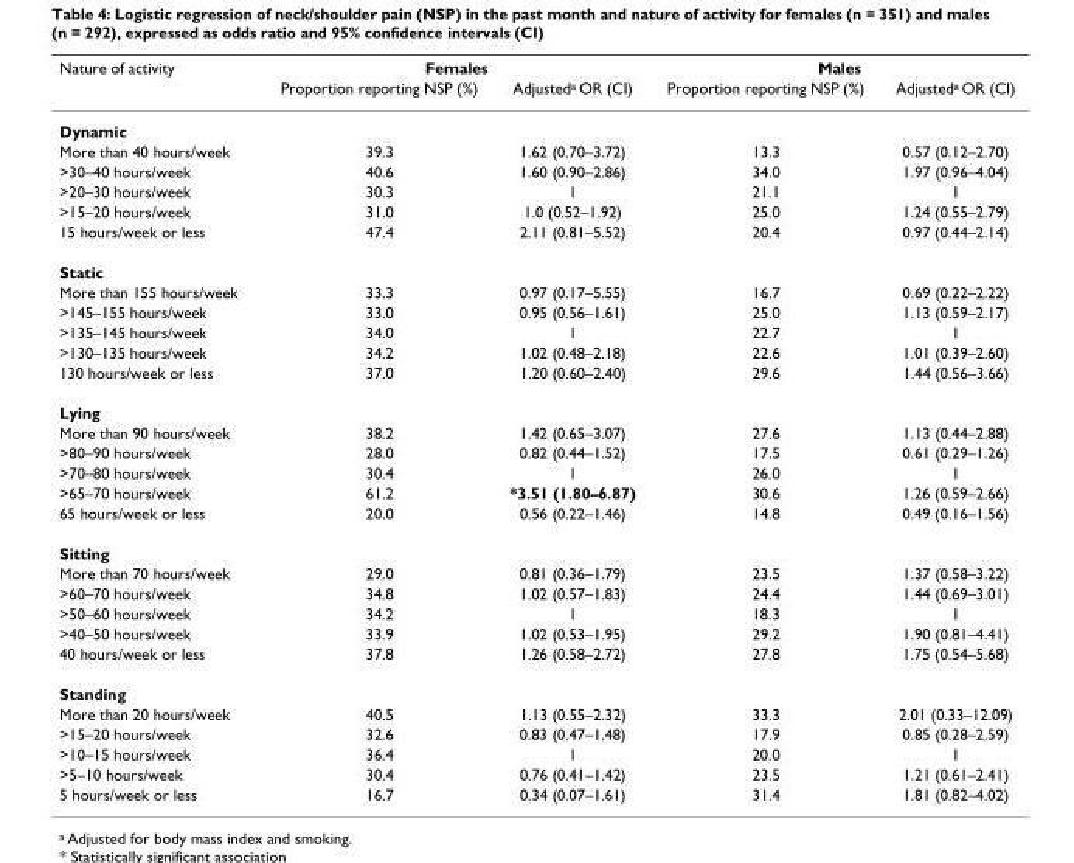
<table><thead><tr><td rowspan="2">Nature of activity</td><td colspan="2">Females</td><td colspan="2">Males</td></tr><tr><td>Proportion reporting NSP (%)</td><td>Adjusted<sup>a</sup> OR (CI)</td><td>Proportion reporting NSP (%)</td><td>Adjusted<sup>a</sup> OR (CI)</td></tr></thead><tbody><tr><td colspan="5">Dynamic</td></tr><tr><td>More than 40 hours/week</td><td>39.3</td><td>1.62 (0.70–3.72)</td><td>13.3</td><td>0.57 (0.12–2.70)</td></tr><tr><td>&gt;30–40 hours/week</td><td>40.6</td><td>1.60 (0.90–2.86)</td><td>34.0</td><td>1.97 (0.96–4.04)</td></tr><tr><td>&gt;20–30 hours/week</td><td>30.3</td><td>1</td><td>21.1</td><td>1</td></tr><tr><td>&gt;15–20 hours/week</td><td>31.0</td><td>1.0 (0.52–1.92)</td><td>25.0</td><td>1.24 (0.55–2.79)</td></tr><tr><td>15 hours/week or less</td><td>47.4</td><td>2.11 (0.81–5.52)</td><td>20.4</td><td>0.97 (0.44–2.14)</td></tr><tr><td colspan="5">Static</td></tr><tr><td>More than 155 hours/week</td><td>33.3</td><td>0.97 (0.17–5.55)</td><td>16.7</td><td>0.69 (0.22–2.22)</td></tr><tr><td>&gt;145–155 hours/week</td><td>33.0</td><td>0.95 (0.56–1.61)</td><td>25.0</td><td>1.13 (0.59–2.17)</td></tr><tr><td>&gt;135–145 hours/week</td><td>34.0</td><td>1</td><td>22.7</td><td>1</td></tr><tr><td>&gt;130–135 hours/week</td><td>34.2</td><td>1.02 (0.48–2.18)</td><td>22.6</td><td>1.01 (0.39–2.60)</td></tr><tr><td>130 hours/week or less</td><td>37.0</td><td>1.20 (0.60–2.40)</td><td>29.6</td><td>1.44 (0.56–3.66)</td></tr><tr><td colspan="5">Lying</td></tr><tr><td>More than 90 hours/week</td><td>38.2</td><td>1.42 (0.65–3.07)</td><td>27.6</td><td>1.13 (0.44–2.88)</td></tr><tr><td>&gt;80–90 hours/week</td><td>28.0</td><td>0.82 (0.44–1.52)</td><td>17.5</td><td>0.61 (0.29–1.26)</td></tr><tr><td>&gt;70–80 hours/week</td><td>30.4</td><td>1</td><td>26.0</td><td>1</td></tr><tr><td>&gt;65–70 hours/week</td><td>61.2</td><td>*3.51 (1.80–6.87)</td><td>30.6</td><td>1.26 (0.59–2.66)</td></tr><tr><td>65 hours/week or less</td><td>20.0</td><td>0.56 (0.22–1.46)</td><td>14.8</td><td>0.49 (0.16–1.56)</td></tr><tr><td colspan="5">Sitting</td></tr><tr><td>More than 70 hours/week</td><td>29.0</td><td>0.81 (0.36–1.79)</td><td>23.5</td><td>1.37 (0.58–3.22)</td></tr><tr><td>&gt;60–70 hours/week</td><td>34.8</td><td>1.02 (0.57–1.83)</td><td>24.4</td><td>1.44 (0.69–3.01)</td></tr><tr><td>&gt;50–60 hours/week</td><td>34.2</td><td>1</td><td>18.3</td><td>1</td></tr><tr><td>&gt;40–50 hours/week</td><td>33.9</td><td>1.02 (0.53–1.95)</td><td>29.2</td><td>1.90 (0.81–4.41)</td></tr><tr><td>40 hours/week or less</td><td>37.8</td><td>1.26 (0.58–2.72)</td><td>27.8</td><td>1.75 (0.54–5.68)</td></tr><tr><td colspan="5">Standing</td></tr><tr><td>More than 20 hours/week</td><td>40.5</td><td>1.13 (0.55–2.32)</td><td>33.3</td><td>2.01 (0.33–12.09)</td></tr><tr><td>&gt;15–20 hours/week</td><td>32.6</td><td>0.83 (0.47–1.48)</td><td>17.9</td><td>0.85 (0.28–2.59)</td></tr><tr><td>&gt;10–15 hours/week</td><td>36.4</td><td>1</td><td>20.0</td><td>1</td></tr><tr><td>&gt;5–10 hours/week</td><td>30.4</td><td>0.76 (0.41–1.42)</td><td>23.5</td><td>1.21 (0.61–2.41)</td></tr><tr><td>5 hours/week or less</td><td>16.7</td><td>0.34 (0.07–1.61)</td><td>31.4</td><td>1.81 (0.82–4.02)</td></tr></tbody></table>